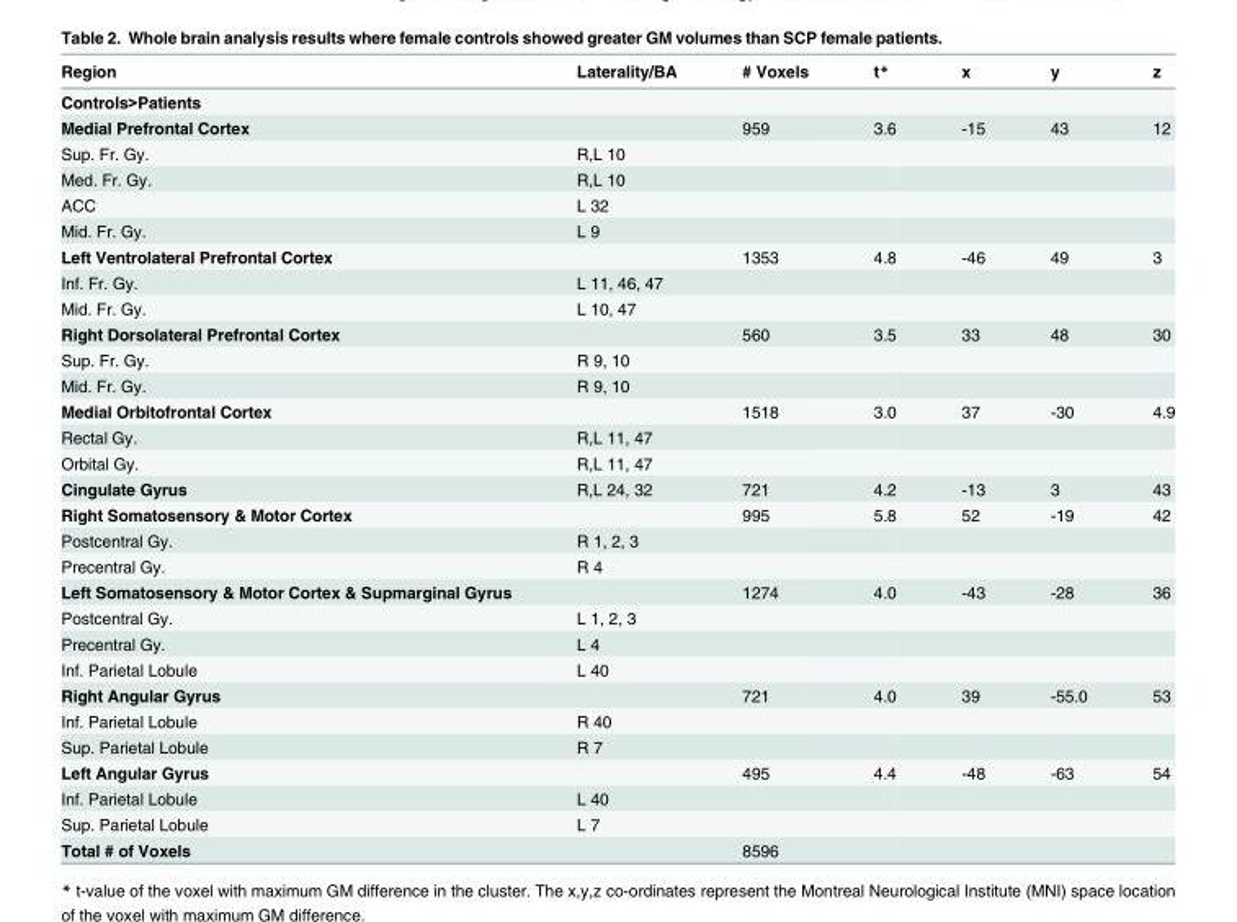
<table><thead><tr><td>Region</td><td>Laterality/BA</td><td># Voxels</td><td>t*</td><td>x</td><td>y</td><td>z</td></tr></thead><tbody><tr><td colspan="7">Controls&gt;Patients</td></tr><tr><td>Medial Prefrontal Cortex</td><td></td><td>959</td><td>3.6</td><td>-15</td><td>43</td><td>12</td></tr><tr><td>Sup. Fr. Gy.</td><td>R,L 10</td><td></td><td></td><td></td><td></td><td></td></tr><tr><td>Med. Fr. Gy.</td><td>R,L 10</td><td></td><td></td><td></td><td></td><td></td></tr><tr><td>ACC</td><td>L 32</td><td></td><td></td><td></td><td></td><td></td></tr><tr><td>Mid. Fr. Gy.</td><td>L 9</td><td></td><td></td><td></td><td></td><td></td></tr><tr><td>Left Ventrolateral Prefrontal Cortex</td><td></td><td>1353</td><td>4.8</td><td>-46</td><td>49</td><td>3</td></tr><tr><td>Inf. Fr. Gy.</td><td>L 11, 46, 47</td><td></td><td></td><td></td><td></td><td></td></tr><tr><td>Mid. Fr. Gy.</td><td>L 10, 47</td><td></td><td></td><td></td><td></td><td></td></tr><tr><td>Right Dorsolateral Prefrontal Cortex</td><td></td><td>560</td><td>3.5</td><td>33</td><td>48</td><td>30</td></tr><tr><td>Sup. Fr. Gy.</td><td>R 9, 10</td><td></td><td></td><td></td><td></td><td></td></tr><tr><td>Mid. Fr. Gy.</td><td>R 9, 10</td><td></td><td></td><td></td><td></td><td></td></tr><tr><td>Medial Orbitofrontal Cortex</td><td></td><td>1518</td><td>3.0</td><td>37</td><td>-30</td><td>4.9</td></tr><tr><td>Rectal Gy.</td><td>R,L 11, 47</td><td></td><td></td><td></td><td></td><td></td></tr><tr><td>Orbital Gy.</td><td>R,L 11, 47</td><td></td><td></td><td></td><td></td><td></td></tr><tr><td>Cingulate Gyrus</td><td>R,L 24, 32</td><td>721</td><td>4.2</td><td>-13</td><td>3</td><td>43</td></tr><tr><td>Right Somatosensory &amp; Motor Cortex</td><td></td><td>995</td><td>5.8</td><td>52</td><td>-19</td><td>42</td></tr><tr><td>Postcentral Gy.</td><td>R 1, 2, 3</td><td></td><td></td><td></td><td></td><td></td></tr><tr><td>Precentral Gy.</td><td>R 4</td><td></td><td></td><td></td><td></td><td></td></tr><tr><td>Left Somatosensory &amp; Motor Cortex &amp; Supmarginal Gyrus</td><td></td><td>1274</td><td>4.0</td><td>-43</td><td>-28</td><td>36</td></tr><tr><td>Postcentral Gy.</td><td>L 1, 2, 3</td><td></td><td></td><td></td><td></td><td></td></tr><tr><td>Precentral Gy.</td><td>L 4</td><td></td><td></td><td></td><td></td><td></td></tr><tr><td>Inf. Parietal Lobule</td><td>L 40</td><td></td><td></td><td></td><td></td><td></td></tr><tr><td>Right Angular Gyrus</td><td></td><td>721</td><td>4.0</td><td>39</td><td>-55.0</td><td>53</td></tr><tr><td>Inf. Parietal Lobule</td><td>R 40</td><td></td><td></td><td></td><td></td><td></td></tr><tr><td>Sup. Parietal Lobule</td><td>R 7</td><td></td><td></td><td></td><td></td><td></td></tr><tr><td>Left Angular Gyrus</td><td></td><td>495</td><td>4.4</td><td>-48</td><td>-63</td><td>54</td></tr><tr><td>Inf. Parietal Lobule</td><td>L 40</td><td></td><td></td><td></td><td></td><td></td></tr><tr><td>Sup. Parietal Lobule</td><td>L 7</td><td></td><td></td><td></td><td></td><td></td></tr><tr><td>Total # of Voxels</td><td></td><td>8596</td><td></td><td></td><td></td><td></td></tr></tbody></table>